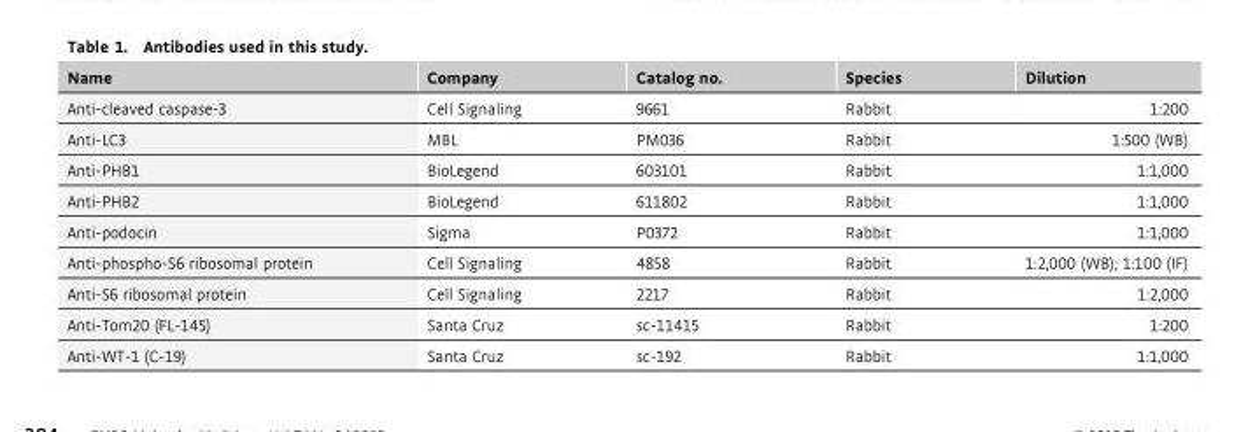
<table><thead><tr><td>Name</td><td>Company</td><td>Catalog no.</td><td>Species</td><td>Dilution</td></tr></thead><tbody><tr><td>Anti-cleaved caspase-3</td><td>Cell Signaling</td><td>9661</td><td>Rabbit</td><td>1:200</td></tr><tr><td>Anti-LC3</td><td>MBL</td><td>PM036</td><td>Rabbit</td><td>1:500 (WB)</td></tr><tr><td>Anti-PHB1</td><td>BioLegend</td><td>603101</td><td>Rabbit</td><td>1:1,000</td></tr><tr><td>Anti-PHB2</td><td>BioLegend</td><td>611802</td><td>Rabbit</td><td>1:1,000</td></tr><tr><td>Anti-podocin</td><td>Sigma</td><td>P0372</td><td>Rabbit</td><td>1:1,000</td></tr><tr><td>Anti-phospho-S6 ribosomal protein</td><td>Cell Signaling</td><td>4858</td><td>Rabbit</td><td>1:2,000 (WB); 1:100 (IF)</td></tr><tr><td>Anti-S6 ribosomal protein</td><td>Cell Signaling</td><td>2217</td><td>Rabbit</td><td>1:2,000</td></tr><tr><td>Anti-Tom20 (FL-145)</td><td>Santa Cruz</td><td>sc-11415</td><td>Rabbit</td><td>1:200</td></tr><tr><td>Anti-WT-1 (C-19)</td><td>Santa Cruz</td><td>sc-192</td><td>Rabbit</td><td>1:1,000</td></tr></tbody></table>